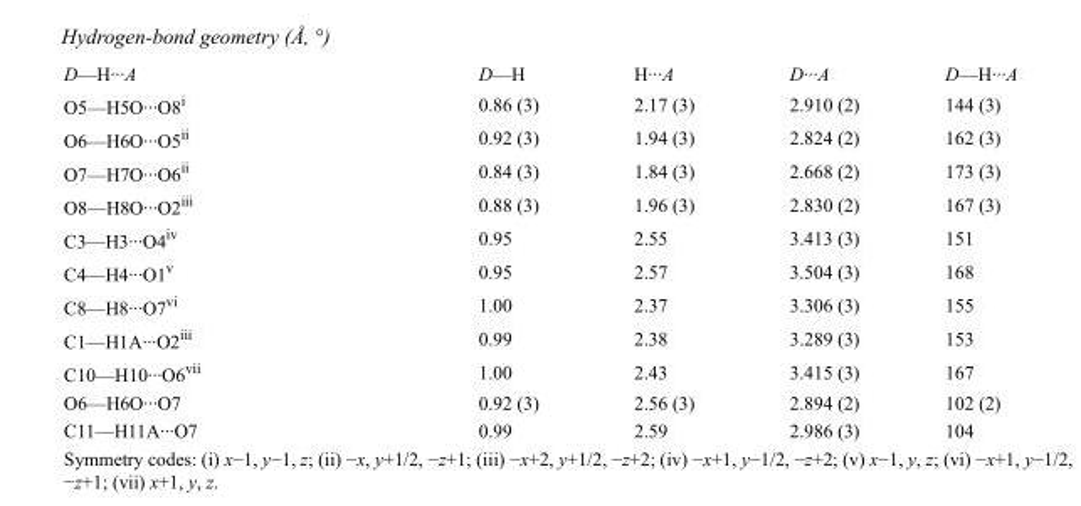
<table><tbody><tr><td>D—H···A</td><td>D—H</td><td>H···A</td><td>D···A</td><td>D—H···A</td></tr><tr><td>O5—H5O···O8<sup>i</sup></td><td>0.86 (3)</td><td>2.17 (3)</td><td>2.910 (2)</td><td>144 (3)</td></tr><tr><td>O6—H6O···O5<sup>ii</sup></td><td>0.92 (3)</td><td>1.94 (3)</td><td>2.824 (2)</td><td>162 (3)</td></tr><tr><td>O7—H7O···O6<sup>ii</sup></td><td>0.84 (3)</td><td>1.84 (3)</td><td>2.668 (2)</td><td>173 (3)</td></tr><tr><td>O8—H8O···O2<sup>iii</sup></td><td>0.88 (3)</td><td>1.96 (3)</td><td>2.830 (2)</td><td>167 (3)</td></tr><tr><td>C3—H3···O4<sup>iv</sup></td><td>0.95</td><td>2.55</td><td>3.413 (3)</td><td>151</td></tr><tr><td>C4—H4···O1<sup>v</sup></td><td>0.95</td><td>2.57</td><td>3.504 (3)</td><td>168</td></tr><tr><td>C8—H8···O7<sup>vi</sup></td><td>1.00</td><td>2.37</td><td>3.306 (3)</td><td>155</td></tr><tr><td>C1—H1A···O2<sup>iii</sup></td><td>0.99</td><td>2.38</td><td>3.289 (3)</td><td>153</td></tr><tr><td>C10—H10···O6<sup>vii</sup></td><td>1.00</td><td>2.43</td><td>3.415 (3)</td><td>167</td></tr><tr><td>O6—H6O···O7</td><td>0.92 (3)</td><td>2.56 (3)</td><td>2.894 (2)</td><td>102 (2)</td></tr><tr><td>C11—H11A···O7</td><td>0.99</td><td>2.59</td><td>2.986 (3)</td><td>104</td></tr></tbody></table>